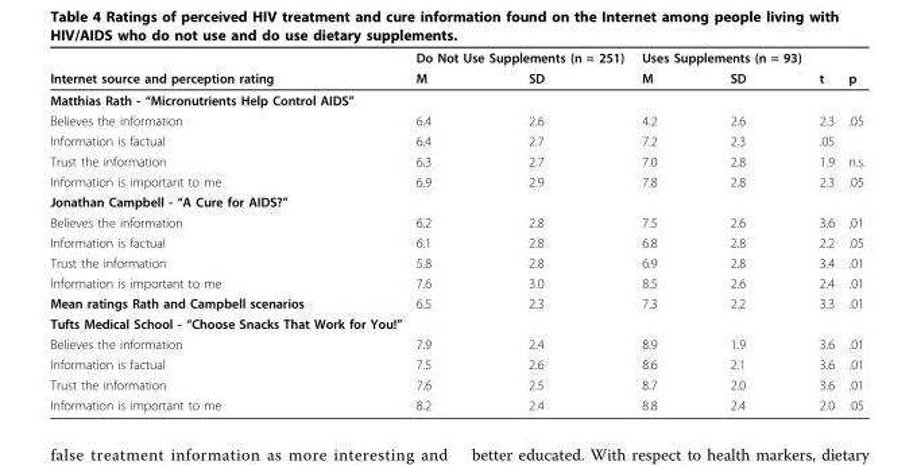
<table><thead><tr><td rowspan="2">Internet source and perception rating</td><td colspan="2">Do Not Use Supplements (n = 251)</td><td colspan="2">Uses Supplements (n = 93)</td><td rowspan="2">t</td><td rowspan="2">p</td></tr><tr><td>M</td><td>SD</td><td>M</td><td>SD</td></tr></thead><tbody><tr><td colspan="7">Matthias Rath - “Micronutrients Help Control AIDS”</td></tr><tr><td>Believes the information</td><td>6.4</td><td>2.6</td><td>4.2</td><td>2.6</td><td>2.3</td><td>.05</td></tr><tr><td>Information is factual</td><td>6.4</td><td>2.7</td><td>7.2</td><td>2.3</td><td>.05</td><td></td></tr><tr><td>Trust the information</td><td>6.3</td><td>2.7</td><td>7.0</td><td>2.8</td><td>1.9</td><td>n.s.</td></tr><tr><td>Information is important to me</td><td>6.9</td><td>2.9</td><td>7.8</td><td>2.8</td><td>2.3</td><td>.05</td></tr><tr><td colspan="7">Jonathan Campbell - “A Cure for AIDS?”</td></tr><tr><td>Believes the information</td><td>6.2</td><td>2.8</td><td>7.5</td><td>2.6</td><td>3.6</td><td>.01</td></tr><tr><td>Information is factual</td><td>6.1</td><td>2.8</td><td>6.8</td><td>2.8</td><td>2.2</td><td>.05</td></tr><tr><td>Trust the information</td><td>5.8</td><td>2.8</td><td>6.9</td><td>2.8</td><td>3.4</td><td>.01</td></tr><tr><td>Information is important to me</td><td>7.6</td><td>3.0</td><td>8.5</td><td>2.6</td><td>2.4</td><td>.01</td></tr><tr><td>Mean ratings Rath and Campbell scenarios</td><td>6.5</td><td>2.3</td><td>7.3</td><td>2.2</td><td>3.3</td><td>.01</td></tr><tr><td colspan="7">Tufts Medical School - “Choose Snacks That Work for You!”</td></tr><tr><td>Believes the information</td><td>7.9</td><td>2.4</td><td>8.9</td><td>1.9</td><td>3.6</td><td>.01</td></tr><tr><td>Information is factual</td><td>7.5</td><td>2.6</td><td>8.6</td><td>2.1</td><td>3.6</td><td>.01</td></tr><tr><td>Trust the information</td><td>7.6</td><td>2.5</td><td>8.7</td><td>2.0</td><td>3.6</td><td>.01</td></tr><tr><td>Information is important to me</td><td>8.2</td><td>2.4</td><td>8.8</td><td>2.4</td><td>2.0</td><td>.05</td></tr></tbody></table>